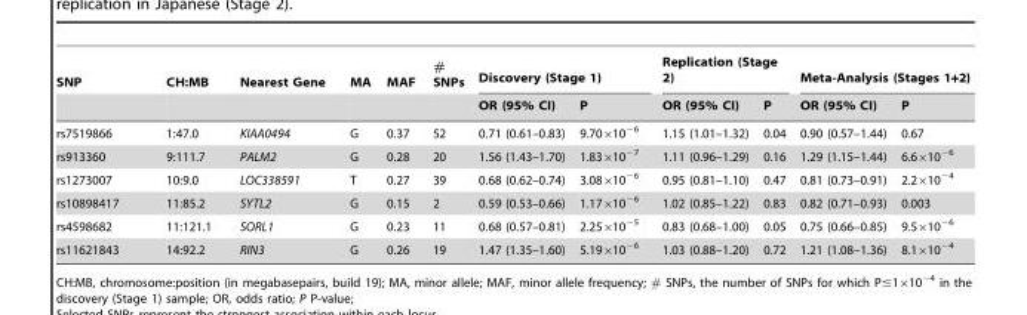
<table><thead><tr><td rowspan="2">SNP</td><td rowspan="2">CH:MB</td><td rowspan="2">Nearest Gene</td><td rowspan="2">MA</td><td rowspan="2">MAF</td><td rowspan="2"># SNPs</td><td colspan="2">Discovery (Stage 1)</td><td colspan="2">Replication (Stage 2)</td><td colspan="2">Meta-Analysis (Stages 1+2)</td></tr><tr><td>OR (95% CI)</td><td>P</td><td>OR (95% CI)</td><td>P</td><td>OR (95% CI)</td><td>P</td></tr></thead><tbody><tr><td>rs7519866</td><td>1:47.0</td><td>KIAA0494</td><td>G</td><td>0.37</td><td>52</td><td>0.71 (0.61–0.83)</td><td>9.70×10<sup>−6</sup></td><td>1.15 (1.01–1.32)</td><td>0.04</td><td>0.90 (0.57–1.44)</td><td>0.67</td></tr><tr><td>rs913360</td><td>9:111.7</td><td>PALM2</td><td>G</td><td>0.28</td><td>20</td><td>1.56 (1.43–1.70)</td><td>1.83×10<sup>−7</sup></td><td>1.11 (0.96–1.29)</td><td>0.16</td><td>1.29 (1.15–1.44)</td><td>6.6×10<sup>−6</sup></td></tr><tr><td>rs1273007</td><td>10:9.0</td><td>LOC338591</td><td>T</td><td>0.27</td><td>39</td><td>0.68 (0.62–0.74)</td><td>3.08×10<sup>−6</sup></td><td>0.95 (0.81–1.10)</td><td>0.47</td><td>0.81 (0.73–0.91)</td><td>2.2×10<sup>−4</sup></td></tr><tr><td>rs10898417</td><td>11:85.2</td><td>SYTL2</td><td>G</td><td>0.15</td><td>2</td><td>0.59 (0.53–0.66)</td><td>1.17×10<sup>−6</sup></td><td>1.02 (0.85–1.22)</td><td>0.83</td><td>0.82 (0.71–0.93)</td><td>0.003</td></tr><tr><td>rs4598682</td><td>11:121.1</td><td>SORL1</td><td>G</td><td>0.23</td><td>11</td><td>0.68 (0.57–0.81)</td><td>2.25×10<sup>−5</sup></td><td>0.83 (0.68–1.00)</td><td>0.05</td><td>0.75 (0.66–0.85)</td><td>9.5×10<sup>−6</sup></td></tr><tr><td>rs11621843</td><td>14:92.2</td><td>RIN3</td><td>G</td><td>0.26</td><td>19</td><td>1.47 (1.35–1.60)</td><td>5.19×10<sup>−6</sup></td><td>1.03 (0.88–1.20)</td><td>0.72</td><td>1.21 (1.08–1.36)</td><td>8.1×10<sup>−4</sup></td></tr></tbody></table>